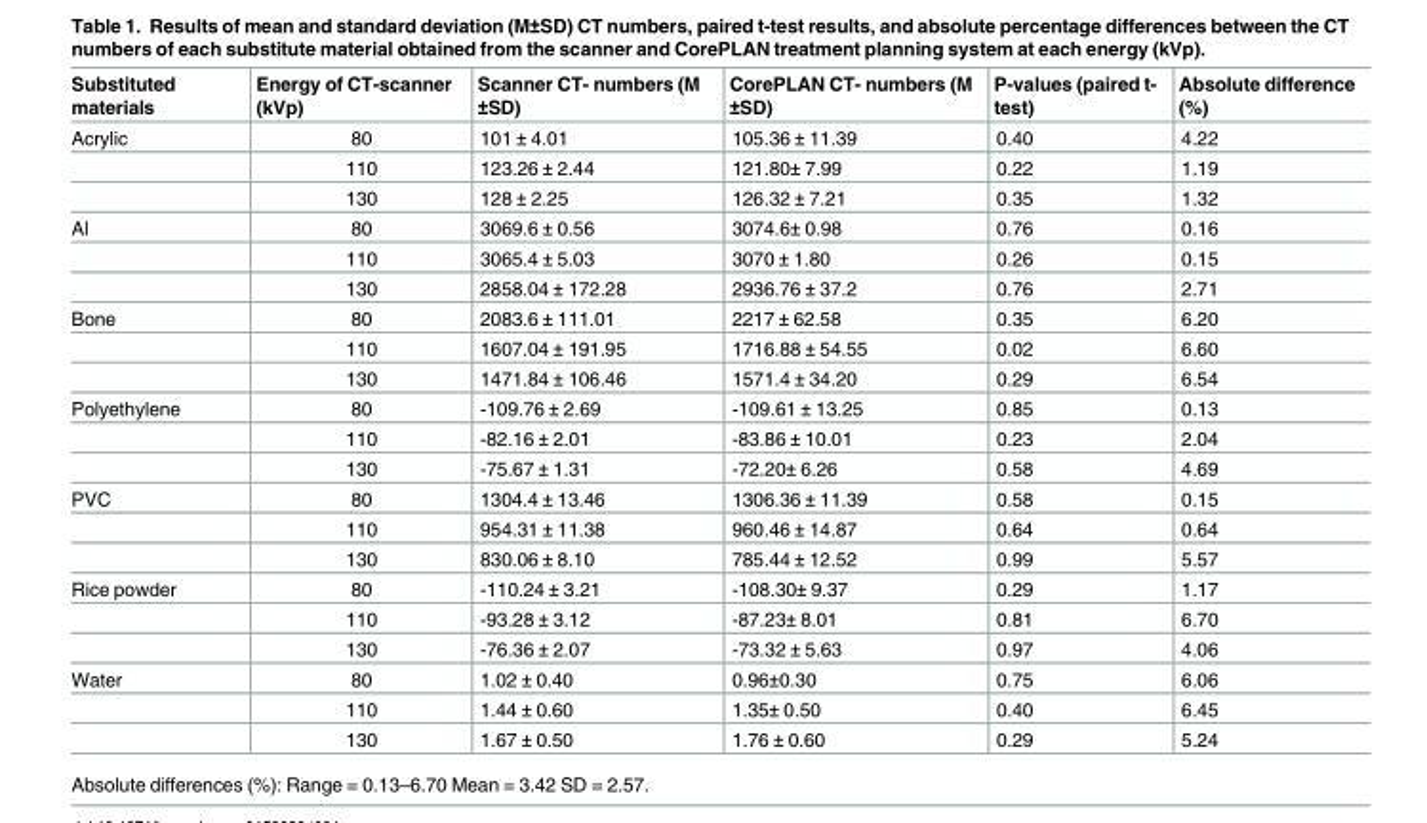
<table><thead><tr><td>Substituted materials</td><td>Energy of CT-scanner (kVp)</td><td>Scanner CT- numbers (M ±SD)</td><td>CorePLAN CT- numbers (M ±SD)</td><td>P-values (paired t- test)</td><td>Absolute difference (%)</td></tr></thead><tbody><tr><td rowspan="3">Acrylic</td><td>80</td><td>101 ± 4.01</td><td>105.36 ± 11.39</td><td>0.40</td><td>4.22</td></tr><tr><td>110</td><td>123.26 ± 2.44</td><td>121.80± 7.99</td><td>0.22</td><td>1.19</td></tr><tr><td>130</td><td>128 ± 2.25</td><td>126.32 ± 7.21</td><td>0.35</td><td>1.32</td></tr><tr><td rowspan="3">Al</td><td>80</td><td>3069.6 ± 0.56</td><td>3074.6± 0.98</td><td>0.76</td><td>0.16</td></tr><tr><td>110</td><td>3065.4 ± 5.03</td><td>3070 ± 1.80</td><td>0.26</td><td>0.15</td></tr><tr><td>130</td><td>2858.04 ± 172.28</td><td>2936.76 ± 37.2</td><td>0.76</td><td>2.71</td></tr><tr><td rowspan="3">Bone</td><td>80</td><td>2083.6 ± 111.01</td><td>2217 ± 62.58</td><td>0.35</td><td>6.20</td></tr><tr><td>110</td><td>1607.04 ± 191.95</td><td>1716.88 ± 54.55</td><td>0.02</td><td>6.60</td></tr><tr><td>130</td><td>1471.84 ± 106.46</td><td>1571.4 ± 34.20</td><td>0.29</td><td>6.54</td></tr><tr><td rowspan="3">Polyethylene</td><td>80</td><td>-109.76 ± 2.69</td><td>-109.61 ± 13.25</td><td>0.85</td><td>0.13</td></tr><tr><td>110</td><td>-82.16 ± 2.01</td><td>-83.86 ± 10.01</td><td>0.23</td><td>2.04</td></tr><tr><td>130</td><td>-75.67 ± 1.31</td><td>-72.20± 6.26</td><td>0.58</td><td>4.69</td></tr><tr><td rowspan="3">PVC</td><td>80</td><td>1304.4 ± 13.46</td><td>1306.36 ± 11.39</td><td>0.58</td><td>0.15</td></tr><tr><td>110</td><td>954.31 ± 11.38</td><td>960.46 ± 14.87</td><td>0.64</td><td>0.64</td></tr><tr><td>130</td><td>830.06 ± 8.10</td><td>785.44 ± 12.52</td><td>0.99</td><td>5.57</td></tr><tr><td rowspan="3">Rice powder</td><td>80</td><td>-110.24 ± 3.21</td><td>-108.30± 9.37</td><td>0.29</td><td>1.17</td></tr><tr><td>110</td><td>-93.28 ± 3.12</td><td>-87.23± 8.01</td><td>0.81</td><td>6.70</td></tr><tr><td>130</td><td>-76.36 ± 2.07</td><td>-73.32 ± 5.63</td><td>0.97</td><td>4.06</td></tr><tr><td rowspan="3">Water</td><td>80</td><td>1.02 ± 0.40</td><td>0.96±0.30</td><td>0.75</td><td>6.06</td></tr><tr><td>110</td><td>1.44 ± 0.60</td><td>1.35± 0.50</td><td>0.40</td><td>6.45</td></tr><tr><td>130</td><td>1.67 ± 0.50</td><td>1.76 ± 0.60</td><td>0.29</td><td>5.24</td></tr></tbody></table>